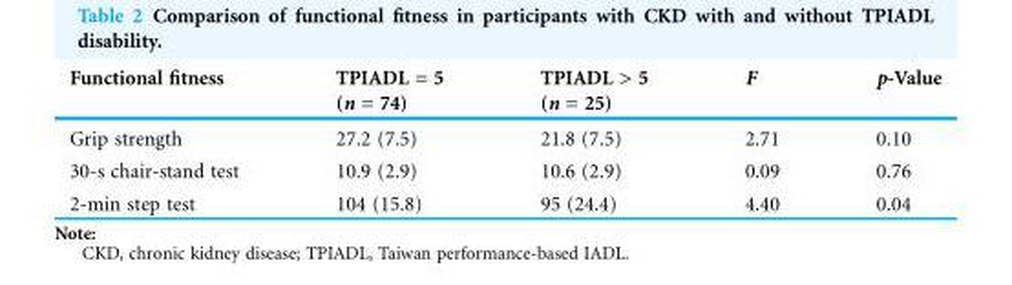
<table><thead><tr><td>Functional fitness</td><td>TPIADL = 5 (n = 74)</td><td>TPIADL &gt; 5 (n = 25)</td><td>F</td><td>p-Value</td></tr></thead><tbody><tr><td>Grip strength</td><td>27.2 (7.5)</td><td>21.8 (7.5)</td><td>2.71</td><td>0.10</td></tr><tr><td>30-s chair-stand test</td><td>10.9 (2.9)</td><td>10.6 (2.9)</td><td>0.09</td><td>0.76</td></tr><tr><td>2-min step test</td><td>104 (15.8)</td><td>95 (24.4)</td><td>4.40</td><td>0.04</td></tr></tbody></table>